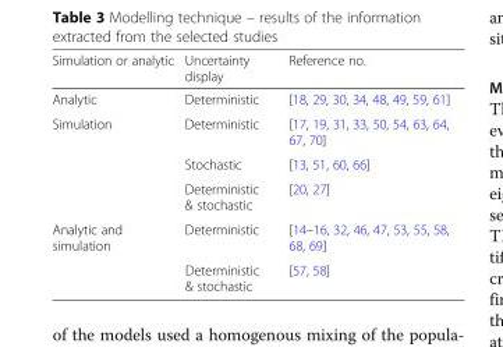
<table><thead><tr><td>Simulation or analytic</td><td>Uncertainty display</td><td>Reference no.</td></tr></thead><tbody><tr><td>Analytic</td><td>Deterministic</td><td>[18, 29, 30, 34, 48, 49, 59, 61]</td></tr><tr><td rowspan="3">Simulation</td><td>Deterministic</td><td>[17, 19, 31, 33, 50, 54, 63, 64, 67, 70]</td></tr><tr><td>Stochastic</td><td>[13, 51, 60, 66]</td></tr><tr><td>Deterministic &amp; stochastic</td><td>[20, 27]</td></tr><tr><td rowspan="2">Analytic and simulation</td><td>Deterministic</td><td>[14–16, 32, 46, 47, 53, 55, 58, 68, 69]</td></tr><tr><td>Deterministic &amp; stochastic</td><td>[57, 58]</td></tr></tbody></table>